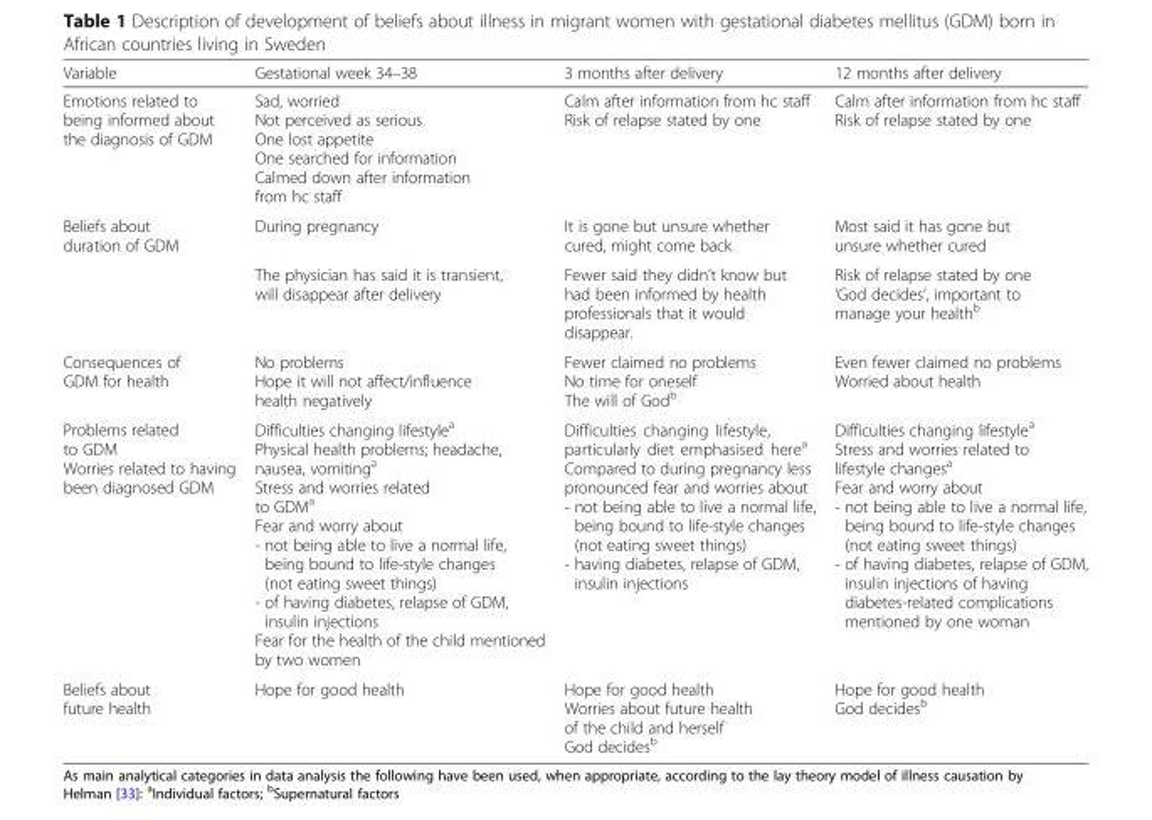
<table><thead><tr><td>Variable</td><td>Gestational week 34–38</td><td>3 months after delivery</td><td>12 months after delivery</td></tr></thead><tbody><tr><td>Emotions related to being informed about the diagnosis of GDM</td><td>Sad, worried Not perceived as serious One lost appetite One searched for information Calmed down after information from hc staff</td><td>Calm after information from hc staff Risk of relapse stated by one</td><td>Calm after information from hc staff Risk of relapse stated by one</td></tr><tr><td rowspan="2">Beliefs about duration of GDM</td><td>During pregnancy</td><td>It is gone but unsure whether cured, might come back</td><td>Most said it has gone but unsure whether cured</td></tr><tr><td>The physician has said it is transient, will disappear after delivery</td><td>Fewer said they didn’t know but had been informed by health professionals that it would disappear.</td><td>Risk of relapse stated by one ‘God decides’, important to manage your health<sup>b</sup></td></tr><tr><td>Consequences of GDM for health</td><td>No problems Hope it will not affect/influence health negatively</td><td>Fewer claimed no problems No time for oneself The will of God<sup>b</sup></td><td>Even fewer claimed no problems Worried about health</td></tr><tr><td>Problems related to GDM Worries related to having been diagnosed GDM</td><td>Difficulties changing lifestyle<sup>a</sup> Physical health problems; headache, nausea, vomiting<sup>a</sup> Stress and worries related to GDM<sup>a</sup> Fear and worry about - not being able to live a normal life, being bound to life-style changes (not eating sweet things) - of having diabetes, relapse of GDM, insulin injections Fear for the health of the child mentioned by two women</td><td>Difficulties changing lifestyle, particularly diet emphasised here<sup>a</sup> Compared to during pregnancy less pronounced fear and worries about - not being able to live a normal life, being bound to life-style changes (not eating sweet things) - having diabetes, relapse of GDM, insulin injections</td><td>Difficulties changing lifestyle<sup>a</sup> Stress and worries related to lifestyle changes<sup>a</sup> Fear and worry about - not being able to live a normal life, being bound to life-style changes (not eating sweet things) - of having diabetes, relapse of GDM, insulin injections of having diabetes-related complications mentioned by one woman</td></tr><tr><td>Beliefs about future health</td><td>Hope for good health</td><td>Hope for good health Worries about future health of the child and herself God decides<sup>b</sup></td><td>Hope for good health God decides<sup>b</sup></td></tr></tbody></table>